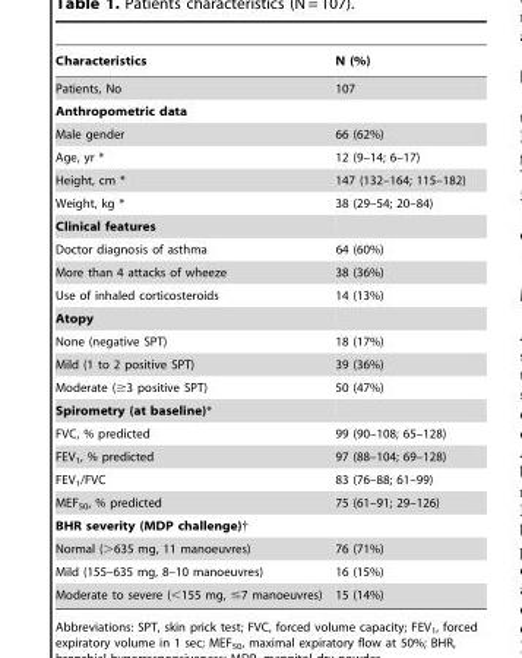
<table><thead><tr><td>Characteristics</td><td>N (%)</td></tr></thead><tbody><tr><td>Patients, No</td><td>107</td></tr><tr><td colspan="2">Anthropometric data</td></tr><tr><td>Male gender</td><td>66 (62%)</td></tr><tr><td>Age, yr *</td><td>12 (9–14; 6–17)</td></tr><tr><td>Height, cm *</td><td>147 (132–164; 115–182)</td></tr><tr><td>Weight, kg *</td><td>38 (29–54; 20–84)</td></tr><tr><td colspan="2">Clinical features</td></tr><tr><td>Doctor diagnosis of asthma</td><td>64 (60%)</td></tr><tr><td>More than 4 attacks of wheeze</td><td>38 (36%)</td></tr><tr><td>Use of inhaled corticosteroids</td><td>14 (13%)</td></tr><tr><td colspan="2">Atopy</td></tr><tr><td>None (negative SPT)</td><td>18 (17%)</td></tr><tr><td>Mild (1 to 2 positive SPT)</td><td>39 (36%)</td></tr><tr><td>Moderate (≥3 positive SPT)</td><td>50 (47%)</td></tr><tr><td colspan="2">Spirometry (at baseline)*</td></tr><tr><td>FVC, % predicted</td><td>99 (90–108; 65–128)</td></tr><tr><td>FEV<sub>1</sub>, % predicted</td><td>97 (88–104; 69–128)</td></tr><tr><td>FEV<sub>1</sub>/FVC</td><td>83 (76–88; 61–99)</td></tr><tr><td>MEF<sub>50</sub>, % predicted</td><td>75 (61–91; 29–126)</td></tr><tr><td colspan="2">BHR severity (MDP challenge)†</td></tr><tr><td>Normal (&gt;635 mg, 11 manoeuvres)</td><td>76 (71%)</td></tr><tr><td>Mild (155–635 mg, 8–10 manoeuvres)</td><td>16 (15%)</td></tr><tr><td>Moderate to severe (&lt;155 mg, ≤7 manoeuvres)</td><td>15 (14%)</td></tr></tbody></table>